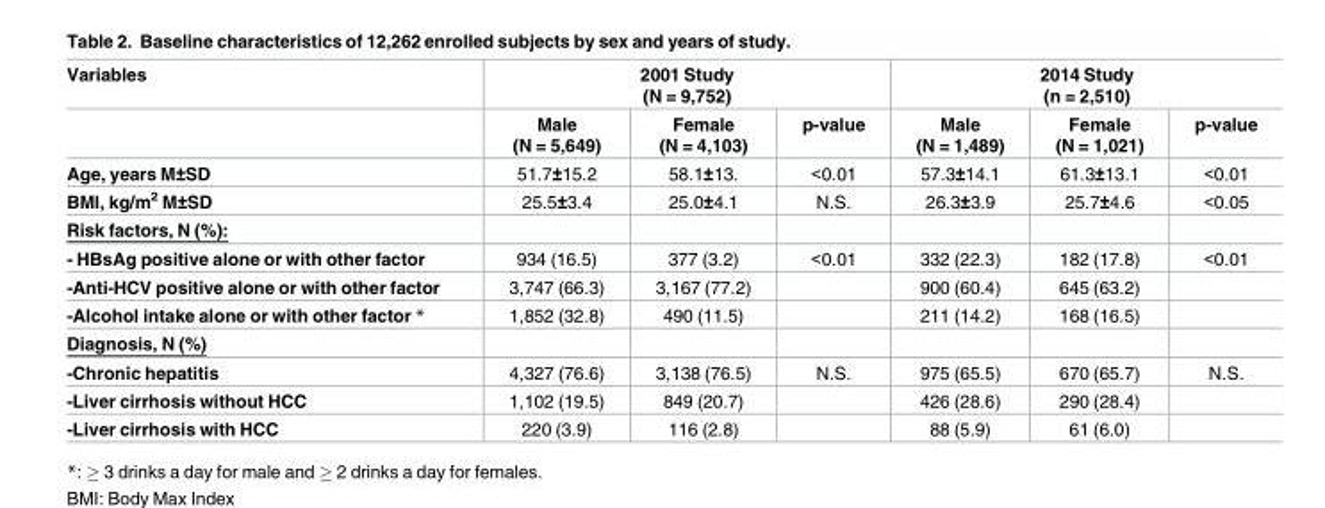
<table><thead><tr><td rowspan="2">Variables</td><td colspan="3">2001 Study (N = 9,752)</td><td colspan="3">2014 Study (n = 2,510)</td></tr><tr><td>Male (N = 5,649)</td><td>Female (N = 4,103)</td><td>p-value</td><td>Male (N = 1,489)</td><td>Female (N = 1,021)</td><td>p-value</td></tr></thead><tbody><tr><td>Age, years M±SD</td><td>51.7±15.2</td><td>58.1±13.</td><td>&lt;0.01</td><td>57.3±14.1</td><td>61.3±13.1</td><td>&lt;0.01</td></tr><tr><td>BMI, kg/m<sup>2</sup> M±SD</td><td>25.5±3.4</td><td>25.0±4.1</td><td>N.S.</td><td>26.3±3.9</td><td>25.7±4.6</td><td>&lt;0.05</td></tr><tr><td colspan="7">Risk factors, N (%):</td></tr><tr><td>- HBsAg positive alone or with other factor</td><td>934 (16.5)</td><td>377 (3.2)</td><td>&lt;0.01</td><td>332 (22.3)</td><td>182 (17.8)</td><td>&lt;0.01</td></tr><tr><td>-Anti-HCV positive alone or with other factor</td><td>3,747 (66.3)</td><td>3,167 (77.2)</td><td></td><td>900 (60.4)</td><td>645 (63.2)</td><td></td></tr><tr><td>-Alcohol intake alone or with other factor *</td><td>1,852 (32.8)</td><td>490 (11.5)</td><td></td><td>211 (14.2)</td><td>168 (16.5)</td><td></td></tr><tr><td colspan="7">Diagnosis, N (%)</td></tr><tr><td>-Chronic hepatitis</td><td>4,327 (76.6)</td><td>3,138 (76.5)</td><td>N.S.</td><td>975 (65.5)</td><td>670 (65.7)</td><td>N.S.</td></tr><tr><td>-Liver cirrhosis without HCC</td><td>1,102 (19.5)</td><td>849 (20.7)</td><td></td><td>426 (28.6)</td><td>290 (28.4)</td><td></td></tr><tr><td>-Liver cirrhosis with HCC</td><td>220 (3.9)</td><td>116 (2.8)</td><td></td><td>88 (5.9)</td><td>61 (6.0)</td><td></td></tr></tbody></table>